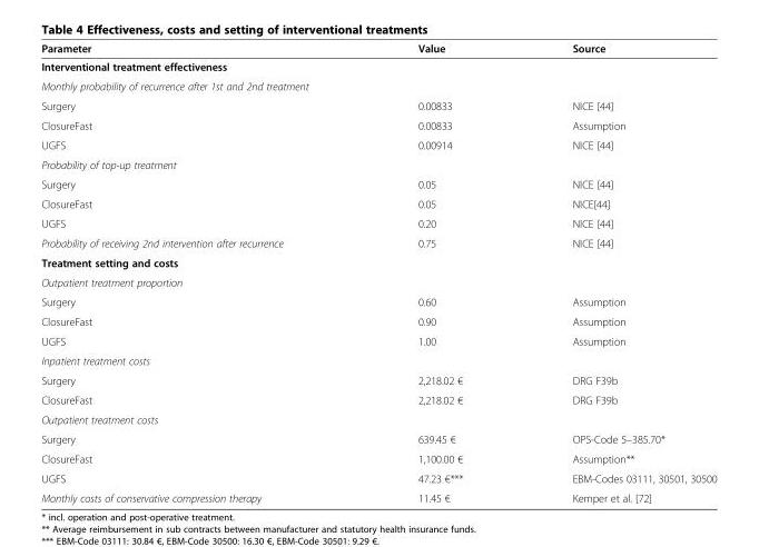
<table><thead><tr><td>Parameter</td><td>Value</td><td>Source</td></tr></thead><tbody><tr><td colspan="3">Interventional treatment effectiveness</td></tr><tr><td colspan="3">Monthly probability of recurrence after 1st and 2nd treatment</td></tr><tr><td>Surgery</td><td>0.00833</td><td>NICE [44]</td></tr><tr><td>ClosureFast</td><td>0.00833</td><td>Assumption</td></tr><tr><td>UGFS</td><td>0.00914</td><td>NICE [44]</td></tr><tr><td colspan="3">Probability of top-up treatment</td></tr><tr><td>Surgery</td><td>0.05</td><td>NICE [44]</td></tr><tr><td>ClosureFast</td><td>0.05</td><td>NICE[44]</td></tr><tr><td>UGFS</td><td>0.20</td><td>NICE [44]</td></tr><tr><td>Probability of receiving 2nd intervention after recurrence</td><td>0.75</td><td>NICE [44]</td></tr><tr><td colspan="3">Treatment setting and costs</td></tr><tr><td colspan="3">Outpatient treatment proportion</td></tr><tr><td>Surgery</td><td>0.60</td><td>Assumption</td></tr><tr><td>ClosureFast</td><td>0.90</td><td>Assumption</td></tr><tr><td>UGFS</td><td>1.00</td><td>Assumption</td></tr><tr><td colspan="3">Inpatient treatment costs</td></tr><tr><td>Surgery</td><td>2,218.02 €</td><td>DRG F39b</td></tr><tr><td>ClosureFast</td><td>2,218.02 €</td><td>DRG F39b</td></tr><tr><td colspan="3">Outpatient treatment costs</td></tr><tr><td>Surgery</td><td>639.45 €</td><td>OPS-Code 5–385.70*</td></tr><tr><td>ClosureFast</td><td>1,100.00 €</td><td>Assumption**</td></tr><tr><td>UGFS</td><td>47.23 €***</td><td>EBM-Codes 03111, 30501, 30500</td></tr><tr><td>Monthly costs of conservative compression therapy</td><td>11.45 €</td><td>Kemper et al. [72]</td></tr></tbody></table>